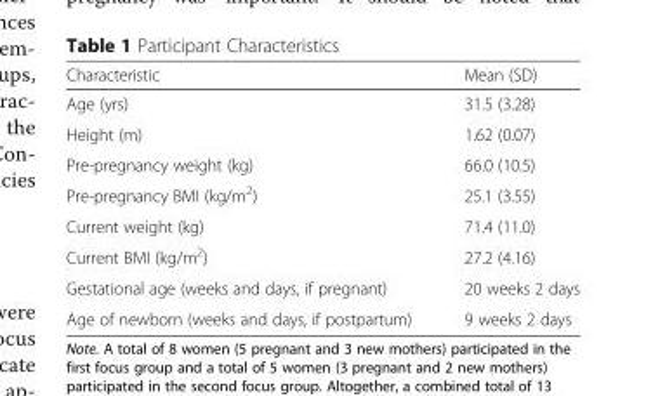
<table><thead><tr><td>Characteristic</td><td>Mean (SD)</td></tr></thead><tbody><tr><td>Age (yrs)</td><td>31.5 (3.28)</td></tr><tr><td>Height (m)</td><td>1.62 (0.07)</td></tr><tr><td>Pre-pregnancy weight (kg)</td><td>66.0 (10.5)</td></tr><tr><td>Pre-pregnancy BMI (kg/m<sup>2</sup>)</td><td>25.1 (3.55)</td></tr><tr><td>Current weight (kg)</td><td>71.4 (11.0)</td></tr><tr><td>Current BMI (kg/m<sup>2</sup>)</td><td>27.2 (4.16)</td></tr><tr><td>Gestational age (weeks and days, if pregnant)</td><td>20 weeks 2 days</td></tr><tr><td>Age of newborn (weeks and days, if postpartum)</td><td>9 weeks 2 days</td></tr></tbody></table>